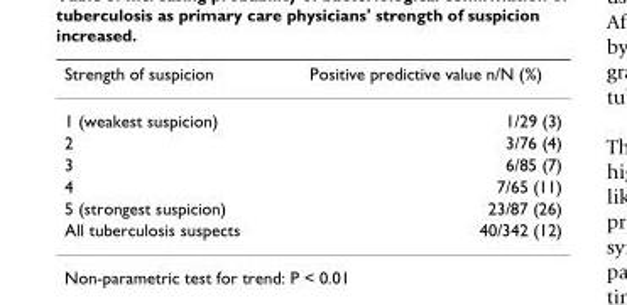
<table><thead><tr><td>Strength of suspicion</td><td>Positive predictive value n/N (%)</td></tr></thead><tbody><tr><td>1 (weakest suspicion)</td><td>1/29 (3)</td></tr><tr><td>2</td><td>3/76 (4)</td></tr><tr><td>3</td><td>6/85 (7)</td></tr><tr><td>4</td><td>7/65 (11)</td></tr><tr><td>5 (strongest suspicion)</td><td>23/87 (26)</td></tr><tr><td>All tuberculosis suspects</td><td>40/342 (12)</td></tr></tbody></table>